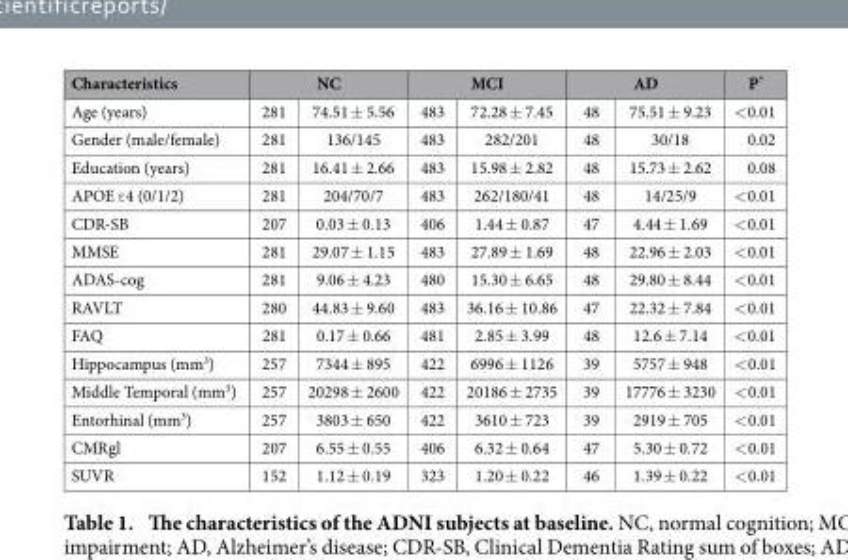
<table><thead><tr><td rowspan="2">Characteristics Age (years)</td><td colspan="2">NC</td><td colspan="2">MCI</td><td colspan="2">AD</td><td rowspan="2">P* &lt; 0.01</td></tr><tr><td>281</td><td>74.51 ± 5.56</td><td>483</td><td>72.28 ± 7.45</td><td>48</td><td>75.51 ± 9.23</td></tr></thead><tbody><tr><td>Gender (male/female)</td><td>281</td><td>136/145</td><td>483</td><td>282/201</td><td>48</td><td>30/18</td><td>0.02</td></tr><tr><td>Education (years)</td><td>281</td><td>16.41 ± 2.66</td><td>483</td><td>15.98 ± 2.82</td><td>48</td><td>15.73 ± 2.62</td><td>0.08</td></tr><tr><td>APOE ε 4 (0/1/2)</td><td>281</td><td>204/70/7</td><td>483</td><td>262/180/41</td><td>48</td><td>14/25/9</td><td>&lt; 0.01</td></tr><tr><td>CDR-SB</td><td>207</td><td>0.03 ± 0.13</td><td>406</td><td>1.44 ± 0.87</td><td>47</td><td>4.44 ± 1.69</td><td>&lt; 0.01</td></tr><tr><td>MMSE</td><td>281</td><td>29.07 ± 1.15</td><td>483</td><td>27.89 ± 1.69</td><td>48</td><td>22.96 ± 2.03</td><td>&lt; 0.01</td></tr><tr><td>ADAS-cog</td><td>281</td><td>9.06 ± 4.23</td><td>480</td><td>15.30 ± 6.65</td><td>48</td><td>29.80 ± 8.44</td><td>&lt; 0.01</td></tr><tr><td>RAVLT</td><td>280</td><td>44.83 ± 9.60</td><td>483</td><td>36.16 ± 10.86</td><td>47</td><td>22.32 ± 7.84</td><td>&lt; 0.01</td></tr><tr><td>FAQ</td><td>281</td><td>0.17 ± 0.66</td><td>481</td><td>2.85 ± 3.99</td><td>48</td><td>12.6 ± 7.14</td><td>&lt; 0.01</td></tr><tr><td>Hippocampus (mm<sup>3</sup>)</td><td>257</td><td>7344 ± 895</td><td>422</td><td>6996 ± 1126</td><td>39</td><td>5757 ± 948</td><td>&lt; 0.01</td></tr><tr><td>Middle Temporal (mm<sup>3</sup>)</td><td>257</td><td>20298 ± 2600</td><td>422</td><td>20186 ± 2735</td><td>39</td><td>17776 ± 3230</td><td>&lt; 0.01</td></tr><tr><td>Entorhinal (mm<sup>3</sup>)</td><td>257</td><td>3803 ± 650</td><td>422</td><td>3610 ± 723</td><td>39</td><td>2919 ± 705</td><td>&lt; 0.01</td></tr><tr><td>CMRgl</td><td>207</td><td>6.55 ± 0.55</td><td>406</td><td>6.32 ± 0.64</td><td>47</td><td>5.30 ± 0.72</td><td>&lt; 0.01</td></tr><tr><td>SUVR</td><td>152</td><td>1.12 ± 0.19</td><td>323</td><td>1.20 ± 0.22</td><td>46</td><td>1.39 ± 0.22</td><td>&lt; 0.01</td></tr></tbody></table>